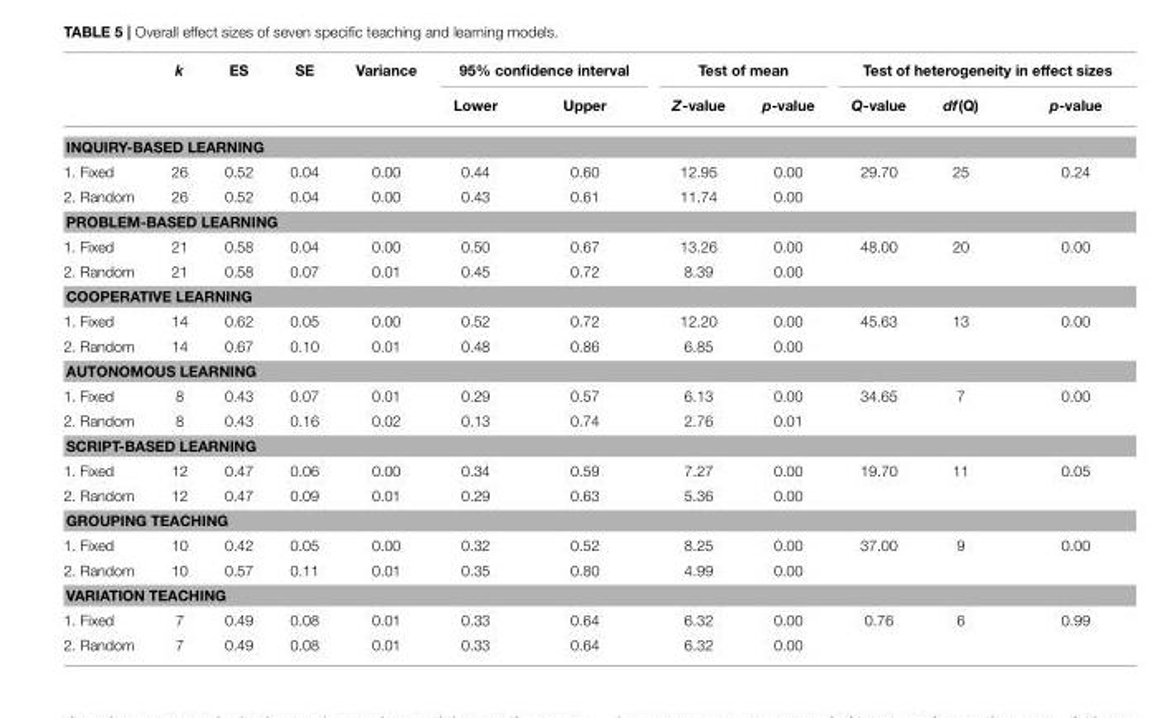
<table><thead><tr><td rowspan="2"></td><td rowspan="2">k</td><td rowspan="2">ES</td><td rowspan="2">SE</td><td rowspan="2">Variance</td><td colspan="2">95% confidence interval</td><td colspan="2">Test of mean</td><td colspan="3">Test of heterogeneity in effect sizes</td></tr><tr><td>Lower</td><td>Upper</td><td>Z-value</td><td>p-value</td><td>Q-value</td><td>df(Q)</td><td>p-value</td></tr></thead><tbody><tr><td colspan="12">INQUIRY-BASED LEARNING</td></tr><tr><td>1. Fixed</td><td>26</td><td>0.52</td><td>0.04</td><td>0.00</td><td>0.44</td><td>0.60</td><td>12.95</td><td>0.00</td><td>29.70</td><td>25</td><td>0.24</td></tr><tr><td>2. Random</td><td>26</td><td>0.52</td><td>0.04</td><td>0.00</td><td>0.43</td><td>0.61</td><td>11.74</td><td>0.00</td><td></td><td></td><td></td></tr><tr><td colspan="12">PROBLEM-BASED LEARNING</td></tr><tr><td>1. Fixed</td><td>21</td><td>0.58</td><td>0.04</td><td>0.00</td><td>0.50</td><td>0.67</td><td>13.26</td><td>0.00</td><td>48.00</td><td>20</td><td>0.00</td></tr><tr><td>2. Random</td><td>21</td><td>0.58</td><td>0.07</td><td>0.01</td><td>0.45</td><td>0.72</td><td>8.39</td><td>0.00</td><td></td><td></td><td></td></tr><tr><td colspan="12">COOPERATIVE LEARNING</td></tr><tr><td>1. Fixed</td><td>14</td><td>0.62</td><td>0.05</td><td>0.00</td><td>0.52</td><td>0.72</td><td>12.20</td><td>0.00</td><td>45.63</td><td>13</td><td>0.00</td></tr><tr><td>2. Random</td><td>14</td><td>0.67</td><td>0.10</td><td>0.01</td><td>0.48</td><td>0.86</td><td>6.85</td><td>0.00</td><td></td><td></td><td></td></tr><tr><td colspan="12">AUTONOMOUS LEARNING</td></tr><tr><td>1. Fixed</td><td>8</td><td>0.43</td><td>0.07</td><td>0.01</td><td>0.29</td><td>0.57</td><td>6.13</td><td>0.00</td><td>34.65</td><td>7</td><td>0.00</td></tr><tr><td>2. Random</td><td>8</td><td>0.43</td><td>0.16</td><td>0.02</td><td>0.13</td><td>0.74</td><td>2.76</td><td>0.01</td><td></td><td></td><td></td></tr><tr><td colspan="12">SCRIPT-BASED LEARNING</td></tr><tr><td>1. Fixed</td><td>12</td><td>0.47</td><td>0.06</td><td>0.00</td><td>0.34</td><td>0.59</td><td>7.27</td><td>0.00</td><td>19.70</td><td>11</td><td>0.05</td></tr><tr><td>2. Random</td><td>12</td><td>0.47</td><td>0.09</td><td>0.01</td><td>0.29</td><td>0.63</td><td>5.36</td><td>0.00</td><td></td><td></td><td></td></tr><tr><td colspan="12">GROUPING TEACHING</td></tr><tr><td>1. Fixed</td><td>10</td><td>0.42</td><td>0.05</td><td>0.00</td><td>0.32</td><td>0.52</td><td>8.25</td><td>0.00</td><td>37.00</td><td>9</td><td>0.00</td></tr><tr><td>2. Random</td><td>10</td><td>0.57</td><td>0.11</td><td>0.01</td><td>0.35</td><td>0.80</td><td>4.99</td><td>0.00</td><td></td><td></td><td></td></tr><tr><td colspan="12">VARIATION TEACHING</td></tr><tr><td>1. Fixed</td><td>7</td><td>0.49</td><td>0.08</td><td>0.01</td><td>0.33</td><td>0.64</td><td>6.32</td><td>0.00</td><td>0.76</td><td>6</td><td>0.99</td></tr><tr><td>2. Random</td><td>7</td><td>0.49</td><td>0.08</td><td>0.01</td><td>0.33</td><td>0.64</td><td>6.32</td><td>0.00</td><td></td><td></td><td></td></tr></tbody></table>